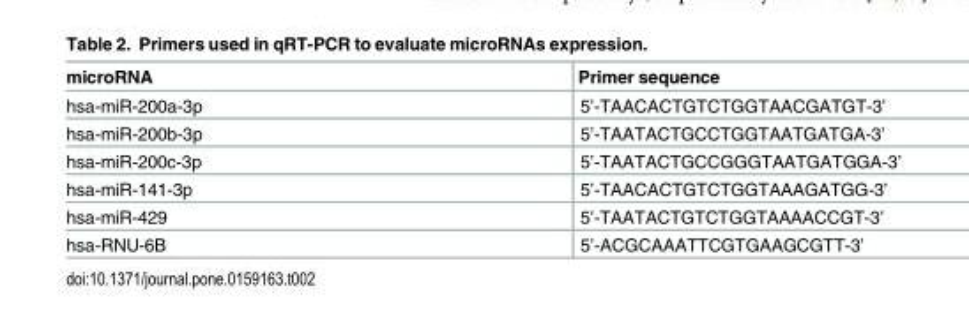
<table><thead><tr><td>microRNA</td><td>Primer sequence</td></tr></thead><tbody><tr><td>hsa-miR-200a-3p</td><td>5’-TAACACTGTCTGGTAACGATGT-3’</td></tr><tr><td>hsa-miR-200b-3p</td><td>5’-TAATACTGCCTGGTAATGATGA-3’</td></tr><tr><td>hsa-miR-200c-3p</td><td>5’-TAATACTGCCGGGTAATGATGGA-3’</td></tr><tr><td>hsa-miR-141-3p</td><td>5’-TAACACTGTCTGGTAAAGATGG-3’</td></tr><tr><td>hsa-miR-429</td><td>5’-TAATACTGTCTGGTAAAACCGT-3’</td></tr><tr><td>hsa-RNU-6B</td><td>5’-ACGCAAATTCGTGAAGCGTT-3’</td></tr></tbody></table>